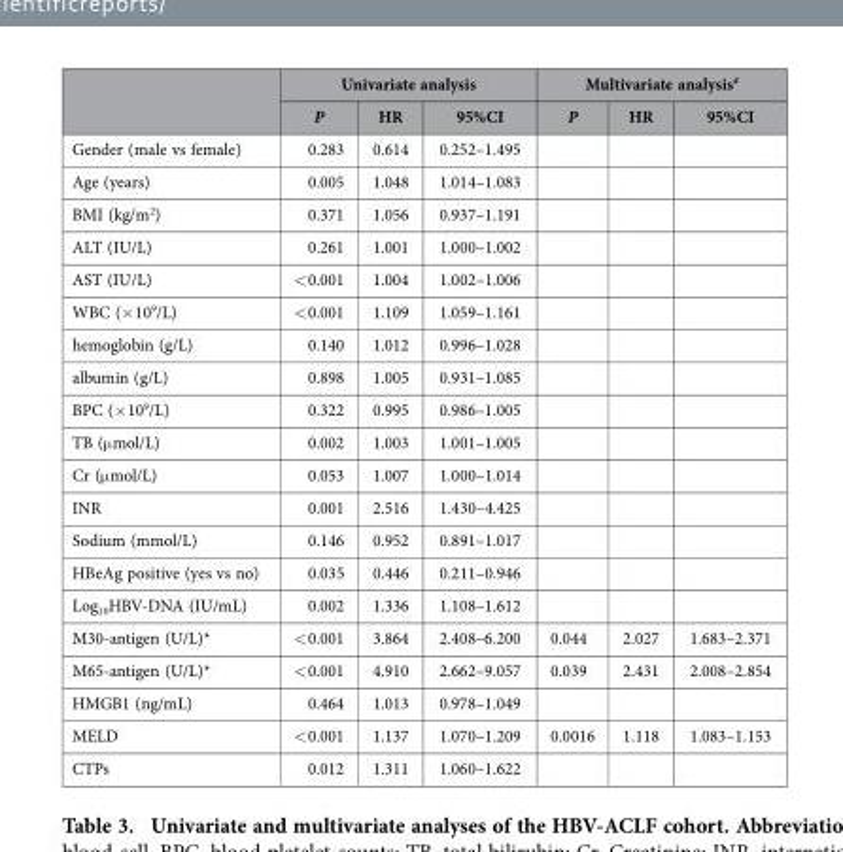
<table><thead><tr><td rowspan="2"></td><td colspan="3">Univariate analysis</td><td colspan="3">Multivariate analysis<sup>#</sup></td></tr><tr><td>P</td><td>HR</td><td>95%CI</td><td>P</td><td>HR</td><td>95%CI</td></tr></thead><tbody><tr><td>Gender (male vs female)</td><td>0.283</td><td>0.614</td><td>0.252–1.495</td><td></td><td></td><td></td></tr><tr><td>Age (years)</td><td>0.005</td><td>1.048</td><td>1.014–1.083</td><td></td><td></td><td></td></tr><tr><td>BMI (kg/m<sup>2</sup>)</td><td>0.371</td><td>1.056</td><td>0.937–1.191</td><td></td><td></td><td></td></tr><tr><td>ALT (IU/L)</td><td>0.261</td><td>1.001</td><td>1.000–1.002</td><td></td><td></td><td></td></tr><tr><td>AST (IU/L)</td><td>&lt; 0.001</td><td>1.004</td><td>1.002–1.006</td><td></td><td></td><td></td></tr><tr><td>WBC (× 10<sup>9</sup>/L)</td><td>&lt; 0.001</td><td>1.109</td><td>1.059–1.161</td><td></td><td></td><td></td></tr><tr><td>hemoglobin (g/L)</td><td>0.140</td><td>1.012</td><td>0.996–1.028</td><td></td><td></td><td></td></tr><tr><td>albumin (g/L)</td><td>0.898</td><td>1.005</td><td>0.931–1.085</td><td></td><td></td><td></td></tr><tr><td>BPC (× 10<sup>9</sup>/L)</td><td>0.322</td><td>0.995</td><td>0.986–1.005</td><td></td><td></td><td></td></tr><tr><td>TB (μ mol/L)</td><td>0.002</td><td>1.003</td><td>1.001–1.005</td><td></td><td></td><td></td></tr><tr><td>Cr (μ mol/L)</td><td>0.053</td><td>1.007</td><td>1.000–1.014</td><td></td><td></td><td></td></tr><tr><td>INR</td><td>0.001</td><td>2.516</td><td>1.430–4.425</td><td></td><td></td><td></td></tr><tr><td>Sodium (mmol/L)</td><td>0.146</td><td>0.952</td><td>0.891–1.017</td><td></td><td></td><td></td></tr><tr><td>HBeAg positive (yes vs no)</td><td>0.035</td><td>0.446</td><td>0.211–0.946</td><td></td><td></td><td></td></tr><tr><td>Log<sub>10</sub>HBV-DNA (IU/mL)</td><td>0.002</td><td>1.336</td><td>1.108–1.612</td><td></td><td></td><td></td></tr><tr><td>M30-antigen (U/L)*</td><td>&lt; 0.001</td><td>3.864</td><td>2.408–6.200</td><td>0.044</td><td>2.027</td><td>1.683–2.371</td></tr><tr><td>M65-antigen (U/L)*</td><td>&lt; 0.001</td><td>4.910</td><td>2.662–9.057</td><td>0.039</td><td>2.431</td><td>2.008–2.854</td></tr><tr><td>HMGB1 (ng/mL)</td><td>0.464</td><td>1.013</td><td>0.978–1.049</td><td></td><td></td><td></td></tr><tr><td>MELD</td><td>&lt; 0.001</td><td>1.137</td><td>1.070–1.209</td><td>0.0016</td><td>1.118</td><td>1.083–1.153</td></tr><tr><td>CTPs</td><td>0.012</td><td>1.311</td><td>1.060–1.622</td><td></td><td></td><td></td></tr></tbody></table>